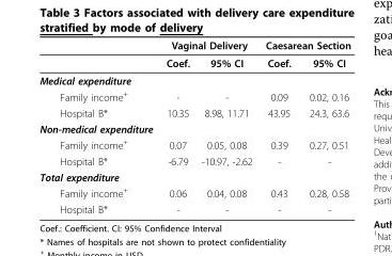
<table><thead><tr><td rowspan="2"></td><td colspan="2">Vaginal Delivery</td><td colspan="2">Caesarean Section</td></tr><tr><td>Coef.</td><td>95% CI</td><td>Coef.</td><td>95% CI</td></tr></thead><tbody><tr><td colspan="5">Medical expenditure</td></tr><tr><td>Family income<sup>+</sup></td><td>-</td><td>-</td><td>0.09</td><td>0.02, 0.16</td></tr><tr><td>Hospital B*</td><td>10.35</td><td>8.98, 11.71</td><td>43.95</td><td>24.3, 63.6</td></tr><tr><td colspan="5">Non-medical expenditure</td></tr><tr><td>Family income<sup>+</sup></td><td>0.07</td><td>0.05, 0.08</td><td>0.39</td><td>0.27, 0.51</td></tr><tr><td>Hospital B*</td><td>-6.79</td><td>-10.97, -2.62</td><td>-</td><td>-</td></tr><tr><td colspan="5">Total expenditure</td></tr><tr><td>Family income<sup>+</sup></td><td>0.06</td><td>0.04, 0.08</td><td>0.43</td><td>0.28, 0.58</td></tr><tr><td>Hospital B*</td><td>-</td><td>-</td><td>-</td><td>-</td></tr></tbody></table>